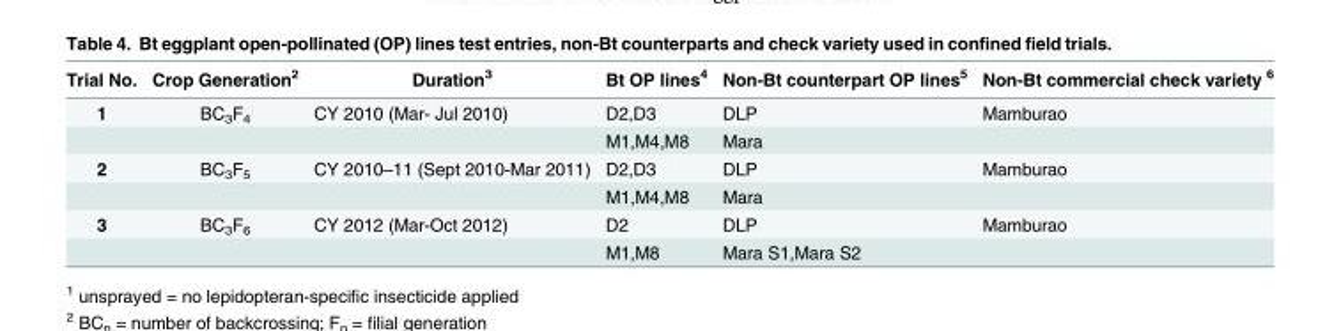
<table><thead><tr><td>Trial No.</td><td>Crop Generation<sup>2</sup></td><td>Duration<sup>3</sup></td><td>Bt OP lines<sup>4</sup></td><td>Non-Bt counterpart OP lines<sup>5</sup></td><td>Non-Bt commercial check variety <sup>6</sup></td></tr></thead><tbody><tr><td rowspan="2">1</td><td>BC<sub>3</sub>F<sub>4</sub></td><td>CY 2010 (Mar- Jul 2010)</td><td>D2,D3</td><td>DLP</td><td>Mamburao</td></tr><tr><td></td><td></td><td>M1,M4,M8</td><td>Mara</td><td></td></tr><tr><td rowspan="2">2</td><td>BC<sub>3</sub>F<sub>5</sub></td><td>CY 2010–11 (Sept 2010-Mar 2011)</td><td>D2,D3</td><td>DLP</td><td>Mamburao</td></tr><tr><td></td><td></td><td>M1,M4,M8</td><td>Mara</td><td></td></tr><tr><td rowspan="2">3</td><td>BC<sub>3</sub>F<sub>6</sub></td><td>CY 2012 (Mar-Oct 2012)</td><td>D2</td><td>DLP</td><td>Mamburao</td></tr><tr><td></td><td></td><td>M1,M8</td><td>Mara S1,Mara S2</td><td></td></tr></tbody></table>